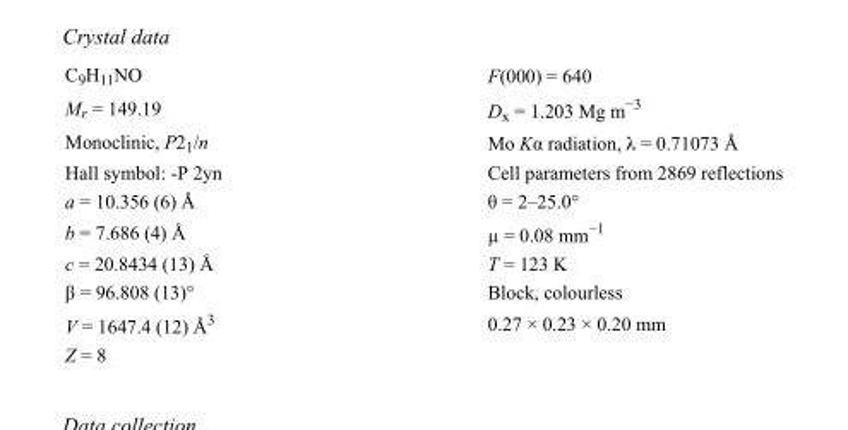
<table><tbody><tr><td>C<sub>9</sub>H<sub>11</sub>NO</td><td>F(000) = 640</td></tr><tr><td>M<sub>r</sub> = 149.19</td><td>D<sub>x</sub> = 1.203 Mg m<sup>−3</sup></td></tr><tr><td>Monoclinic, P2<sub>1</sub>/n</td><td>Mo Kα radiation, λ = 0.71073 Å</td></tr><tr><td>Hall symbol: -P 2yn</td><td>Cell parameters from 2869 reflections</td></tr><tr><td>a = 10.356 (6) Å</td><td>θ = 2–25.0°</td></tr><tr><td>b = 7.686 (4) Å</td><td>µ = 0.08 mm<sup>−1</sup></td></tr><tr><td>c = 20.8434 (13) Å</td><td>T = 123 K</td></tr><tr><td>β = 96.808 (13)°</td><td>Block, colourless</td></tr><tr><td>V = 1647.4 (12) Å<sup>3</sup></td><td>0.27 × 0.23 × 0.20 mm</td></tr><tr><td>Z = 8</td><td></td></tr></tbody></table>